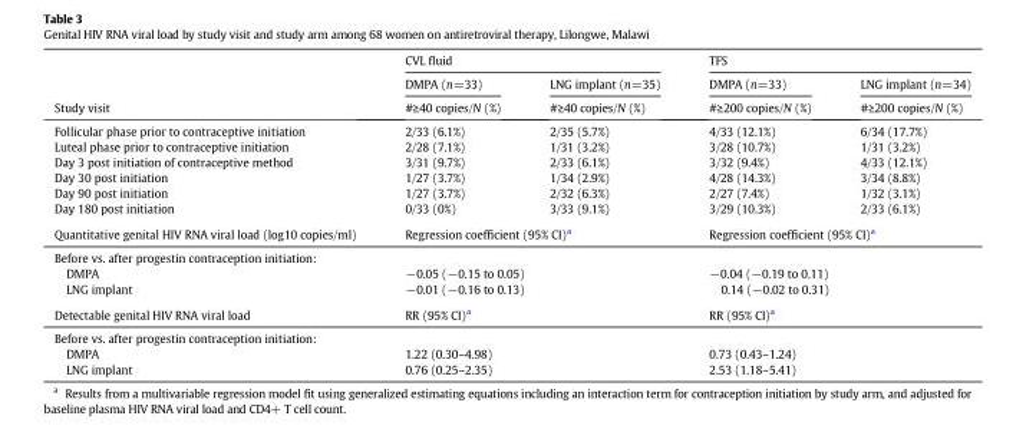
<table><thead><tr><td rowspan="3">Study visit</td><td colspan="2">CVL fluid</td><td colspan="2">TFS</td></tr><tr><td rowspan="2">DMPA (n=33) #≥40 copies/N (%)</td><td rowspan="2">LNG implant (n=35) #≥40 copies/N (%)</td><td rowspan="2">DMPA (n=33) #≥200 copies/N (%)</td><td rowspan="2">LNG implant (n=34) #≥200 copies/N (%)</td></tr><tr></tr></thead><tbody><tr><td>Follicular phase prior to contraceptive initiation</td><td>2/33 (6.1%)</td><td>2/35 (5.7%)</td><td>4/33 (12.1%)</td><td>6/34 (17.7%)</td></tr><tr><td>Luteal phase prior to contraceptive initiation</td><td>2/28 (7.1%)</td><td>1/31 (3.2%)</td><td>3/28 (10.7%)</td><td>1/31 (3.2%)</td></tr><tr><td>Day 3 post initiation of contraceptive method</td><td>3/31 (9.7%)</td><td>2/33 (6.1%)</td><td>3/32 (9.4%)</td><td>4/33 (12.1%)</td></tr><tr><td>Day 30 post initiation</td><td>1/27 (3.7%)</td><td>1/34 (2.9%)</td><td>4/28 (14.3%)</td><td>3/34 (8.8%)</td></tr><tr><td>Day 90 post initiation</td><td>1/27 (3.7%)</td><td>2/32 (6.3%)</td><td>2/27 (7.4%)</td><td>1/32 (3.1%)</td></tr><tr><td>Day 180 post initiation</td><td>0/33 (0%)</td><td>3/33 (9.1%)</td><td>3/29 (10.3%)</td><td>2/33 (6.1%)</td></tr><tr><td>Quantitative genital HIV RNA viral load (log10 copies/ml)</td><td colspan="2">Regression coefficient (95% CI)<sup>a</sup></td><td colspan="2">Regression coefficient (95% CI)<sup>a</sup></td></tr><tr><td colspan="5">Before vs. after progestin contraception initiation:</td></tr><tr><td>DMPA</td><td colspan="2">−0.05 (−0.15 to 0.05)</td><td colspan="2">−0.04 (−0.19 to 0.11)</td></tr><tr><td>LNG implant</td><td colspan="2">−0.01 (−0.16 to 0.13)</td><td colspan="2">0.14 (−0.02 to 0.31)</td></tr><tr><td>Detectable genital HIV RNA viral load</td><td colspan="2">RR (95% CI)<sup>a</sup></td><td colspan="2">RR (95% CI)<sup>a</sup></td></tr><tr><td colspan="5">Before vs. after progestin contraception initiation:</td></tr><tr><td>DMPA</td><td colspan="2">1.22 (0.30–4.98)</td><td colspan="2">0.73 (0.43–1.24)</td></tr><tr><td>LNG implant</td><td colspan="2">0.76 (0.25–2.35)</td><td colspan="2">2.53 (1.18–5.41)</td></tr></tbody></table>